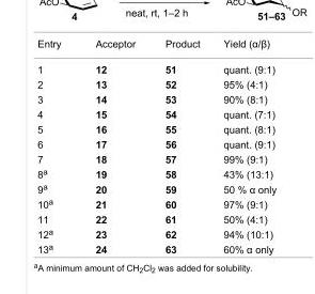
<table><tbody><tr><td>Entry</td><td>Acceptor</td><td>Product</td><td>Yield (α/β)</td></tr><tr><td>1</td><td>12</td><td>51</td><td>quant. (9:1)</td></tr><tr><td>2</td><td>13</td><td>52</td><td>95% (4:1)</td></tr><tr><td>3</td><td>14</td><td>53</td><td>90% (8:1)</td></tr><tr><td>4</td><td>15</td><td>54</td><td>quant. (7:1)</td></tr><tr><td>5</td><td>16</td><td>55</td><td>quant. (8:1)</td></tr><tr><td>6</td><td>17</td><td>56</td><td>quant. (9:1)</td></tr><tr><td>7</td><td>18</td><td>57</td><td>99% (9:1)</td></tr><tr><td>8<sup>a</sup></td><td>19</td><td>58</td><td>43% (13:1)</td></tr><tr><td>9<sup>a</sup></td><td>20</td><td>59</td><td>50 % α only</td></tr><tr><td>10<sup>a</sup></td><td>21</td><td>60</td><td>97% (9:1)</td></tr><tr><td>11</td><td>22</td><td>61</td><td>50% (4:1)</td></tr><tr><td>12<sup>a</sup></td><td>23</td><td>62</td><td>94% (10:1)</td></tr><tr><td>13<sup>a</sup></td><td>24</td><td>63</td><td>60% α only</td></tr></tbody></table>